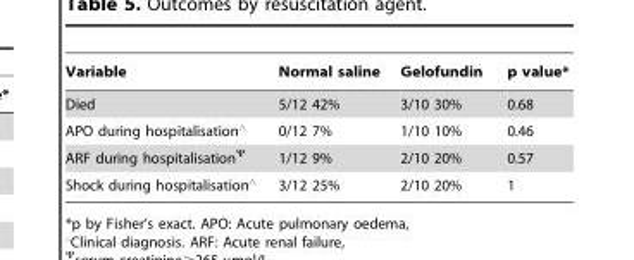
<table><thead><tr><td>Variable</td><td>Normal saline</td><td>Gelofundin</td><td>p value*</td></tr></thead><tbody><tr><td>Died</td><td>5/12 42%</td><td>3/10 30%</td><td>0.68</td></tr><tr><td>APO during hospitalisation‘</td><td>0/12 7%</td><td>1/10 10%</td><td>0.46</td></tr><tr><td>ARF during hospitalisationΨ</td><td>1/12 9%</td><td>2/10 20%</td><td>0.57</td></tr><tr><td>Shock during hospitalisation‘</td><td>3/12 25%</td><td>2/10 20%</td><td>1</td></tr></tbody></table>